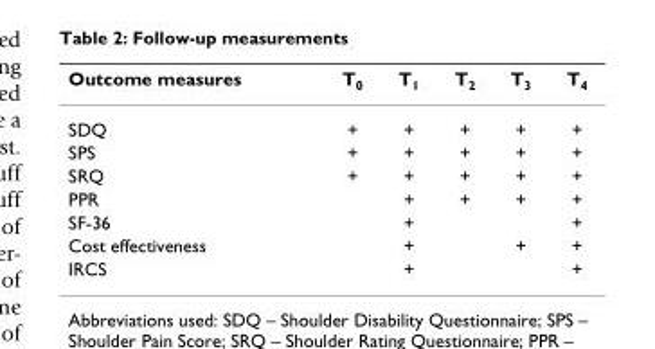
<table><thead><tr><td>Outcome measures</td><td>T0</td><td>T1</td><td>T2</td><td>T3</td><td>T4</td></tr></thead><tbody><tr><td>SDQ</td><td>+</td><td>+</td><td>+</td><td>+</td><td>+</td></tr><tr><td>SPS</td><td>+</td><td>+</td><td>+</td><td>+</td><td>+</td></tr><tr><td>SRQ</td><td>+</td><td>+</td><td>+</td><td>+</td><td>+</td></tr><tr><td>PPR</td><td></td><td>+</td><td>+</td><td>+</td><td>+</td></tr><tr><td>SF-36</td><td></td><td>+</td><td></td><td></td><td>+</td></tr><tr><td>Cost effectiveness</td><td></td><td>+</td><td></td><td>+</td><td>+</td></tr><tr><td>IRCS</td><td></td><td>+</td><td></td><td></td><td>+</td></tr></tbody></table>